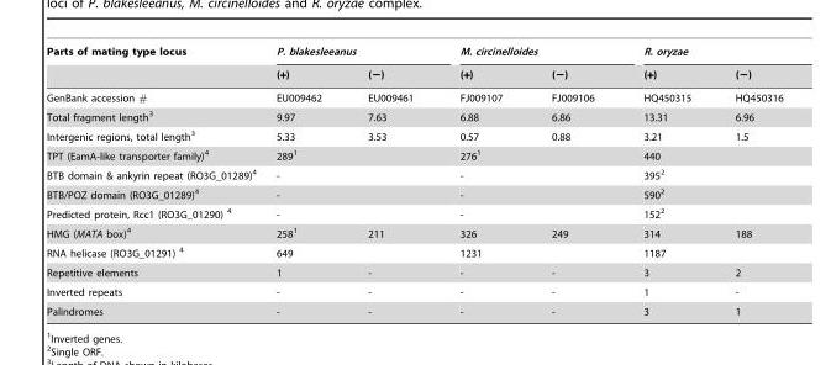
<table><thead><tr><td rowspan="2">Parts of mating type locus</td><td colspan="2">P. blakesleeanus</td><td colspan="2">M. circinelloides</td><td colspan="2">R. oryzae</td></tr><tr><td>(+)</td><td>(−)</td><td>(+)</td><td>(−)</td><td>(+)</td><td>(−)</td></tr></thead><tbody><tr><td>GenBank accession #</td><td>EU009462</td><td>EU009461</td><td>FJ009107</td><td>FJ009106</td><td>HQ450315</td><td>HQ450316</td></tr><tr><td>Total fragment length<sup>3</sup></td><td>9.97</td><td>7.63</td><td>6.88</td><td>6.86</td><td>13.31</td><td>6.96</td></tr><tr><td>Intergenic regions, total length<sup>3</sup></td><td>5.33</td><td>3.53</td><td>0.57</td><td>0.88</td><td>3.21</td><td>1.5</td></tr><tr><td>TPT (EamA-like transporter family)<sup>4</sup></td><td colspan="2">289<sup>1</sup></td><td colspan="2">276<sup>1</sup></td><td colspan="2">440</td></tr><tr><td>BTB domain &amp; ankyrin repeat (RO3G_01289)<sup>4</sup></td><td colspan="2">-</td><td colspan="2">-</td><td colspan="2">395<sup>2</sup></td></tr><tr><td>BTB/POZ domain (RO3G_01289)<sup>4</sup></td><td colspan="2">-</td><td colspan="2">-</td><td colspan="2">590<sup>2</sup></td></tr><tr><td>Predicted protein, Rcc1 (RO3G_01290) 4</td><td colspan="2">-</td><td colspan="2">-</td><td colspan="2">152<sup>2</sup></td></tr><tr><td>HMG (MATA box)<sup>4</sup></td><td>258<sup>1</sup></td><td>211</td><td>326</td><td>249</td><td>314</td><td>188</td></tr><tr><td>RNA helicase (RO3G_01291) 4</td><td colspan="2">649</td><td colspan="2">1231</td><td colspan="2">1187</td></tr><tr><td>Repetitive elements</td><td>1</td><td>-</td><td>-</td><td>-</td><td>3</td><td>2</td></tr><tr><td>Inverted repeats</td><td>-</td><td>-</td><td>-</td><td>-</td><td>1</td><td>-</td></tr><tr><td>Palindromes</td><td>-</td><td>-</td><td>-</td><td>-</td><td>3</td><td>1</td></tr></tbody></table>